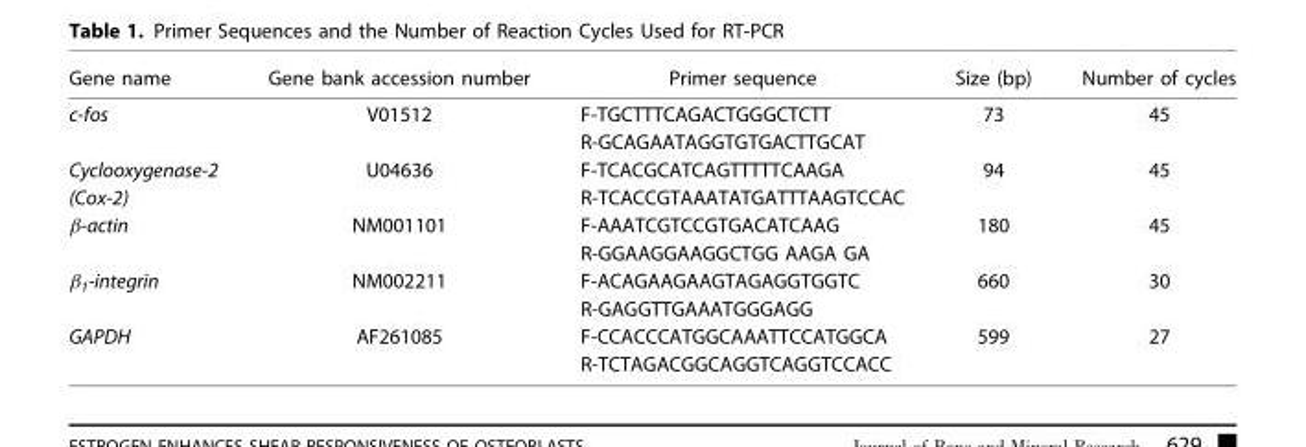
<table><thead><tr><td>Gene name</td><td>Gene bank accession number</td><td>Primer sequence</td><td>Size (bp)</td><td>Number of cycles</td></tr></thead><tbody><tr><td rowspan="2">c-fos</td><td>V01512</td><td>F-TGCTTTCAGACTGGGCTCTT</td><td>73</td><td>45</td></tr><tr><td></td><td>R-GCAGAATAGGTGTGACTTGCAT</td><td></td><td></td></tr><tr><td>Cyclooxygenase-2</td><td>U04636</td><td>F-TCACGCATCAGTTTTTCAAGA</td><td>94</td><td>45</td></tr><tr><td>(Cox-2)</td><td></td><td>R-TCACCGTAAATATGATTTAAGTCCAC</td><td></td><td></td></tr><tr><td rowspan="2">β-actin</td><td>NM001101</td><td>F-AAATCGTCCGTGACATCAAG</td><td>180</td><td>45</td></tr><tr><td></td><td>R-GGAAGGAAGGCTGG AAGA GA</td><td></td><td></td></tr><tr><td rowspan="2">β<sub>1</sub>-integrin</td><td>NM002211</td><td>F-ACAGAAGAAGTAGAGGTGGTC</td><td>660</td><td>30</td></tr><tr><td></td><td>R-GAGGTTGAAATGGGAGG</td><td></td><td></td></tr><tr><td rowspan="2">GAPDH</td><td>AF261085</td><td>F-CCACCCATGGCAAATTCCATGGCA</td><td>599</td><td>27</td></tr><tr><td></td><td>R-TCTAGACGGCAGGTCAGGTCCACC</td><td></td><td></td></tr></tbody></table>